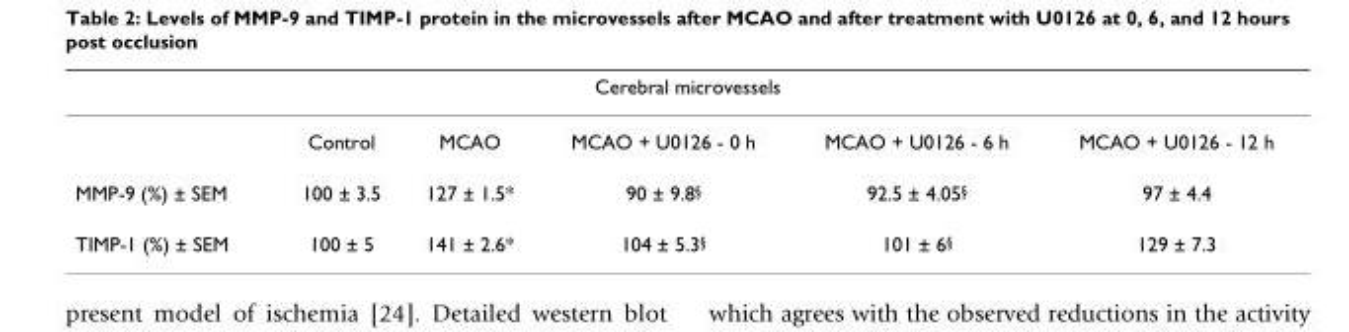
<table><thead><tr><td colspan="6">Cerebral microvessels</td></tr><tr><td></td><td>Control</td><td>MCAO</td><td>MCAO + U0126 - 0 h</td><td>MCAO + U0126 - 6 h</td><td>MCAO + U0126 - 12 h</td></tr></thead><tbody><tr><td>MMP-9 (%) ± SEM</td><td>100 ± 3.5</td><td>127 ± 1.5*</td><td>90 ± 9.8<sup>§</sup></td><td>92.5 ± 4.05<sup>§</sup></td><td>97 ± 4.4</td></tr><tr><td>TIMP-1 (%) ± SEM</td><td>100 ± 5</td><td>141 ± 2.6*</td><td>104 ± 5.3<sup>§</sup></td><td>101 ± 6<sup>§</sup></td><td>129 ± 7.3</td></tr></tbody></table>